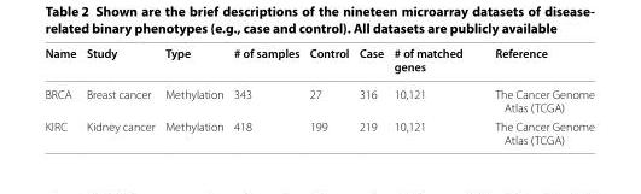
<table><thead><tr><td>Name</td><td>Study</td><td>Type</td><td># of samples</td><td>Control</td><td>Case</td><td># of matched genes</td><td>Reference</td></tr></thead><tbody><tr><td>BRCA</td><td>Breast cancer</td><td>Methylation</td><td>343</td><td>27</td><td>316</td><td>10,121</td><td>The Cancer Genome Atlas (TCGA)</td></tr><tr><td>KIRC</td><td>Kidney cancer</td><td>Methylation</td><td>418</td><td>199</td><td>219</td><td>10,121</td><td>The Cancer Genome Atlas (TCGA)</td></tr></tbody></table>